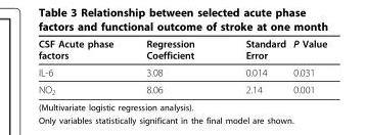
<table><thead><tr><td>CSF Acute phase factors</td><td>Regression Coefficient</td><td>Standard Error</td><td>P Value</td></tr></thead><tbody><tr><td>IL-6</td><td>3.08</td><td>0.014</td><td>0.031</td></tr><tr><td>NO<sub>2</sub></td><td>8.06</td><td>2.14</td><td>0.001</td></tr></tbody></table>